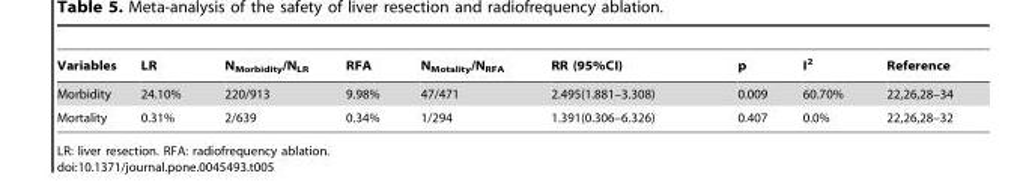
<table><thead><tr><td>Variables</td><td>LR</td><td>N<sub>Morbidity</sub>/N<sub>LR</sub></td><td>RFA</td><td>N<sub>Motality</sub>/N<sub>RFA</sub></td><td>RR (95%CI)</td><td>p</td><td>I<sup>2</sup></td><td>Reference</td></tr></thead><tbody><tr><td>Morbidity</td><td>24.10%</td><td>220/913</td><td>9.98%</td><td>47/471</td><td>2.495(1.881–3.308)</td><td>0.009</td><td>60.70%</td><td>22,26,28–34</td></tr><tr><td>Mortality</td><td>0.31%</td><td>2/639</td><td>0.34%</td><td>1/294</td><td>1.391(0.306–6.326)</td><td>0.407</td><td>0.0%</td><td>22,26,28–32</td></tr></tbody></table>